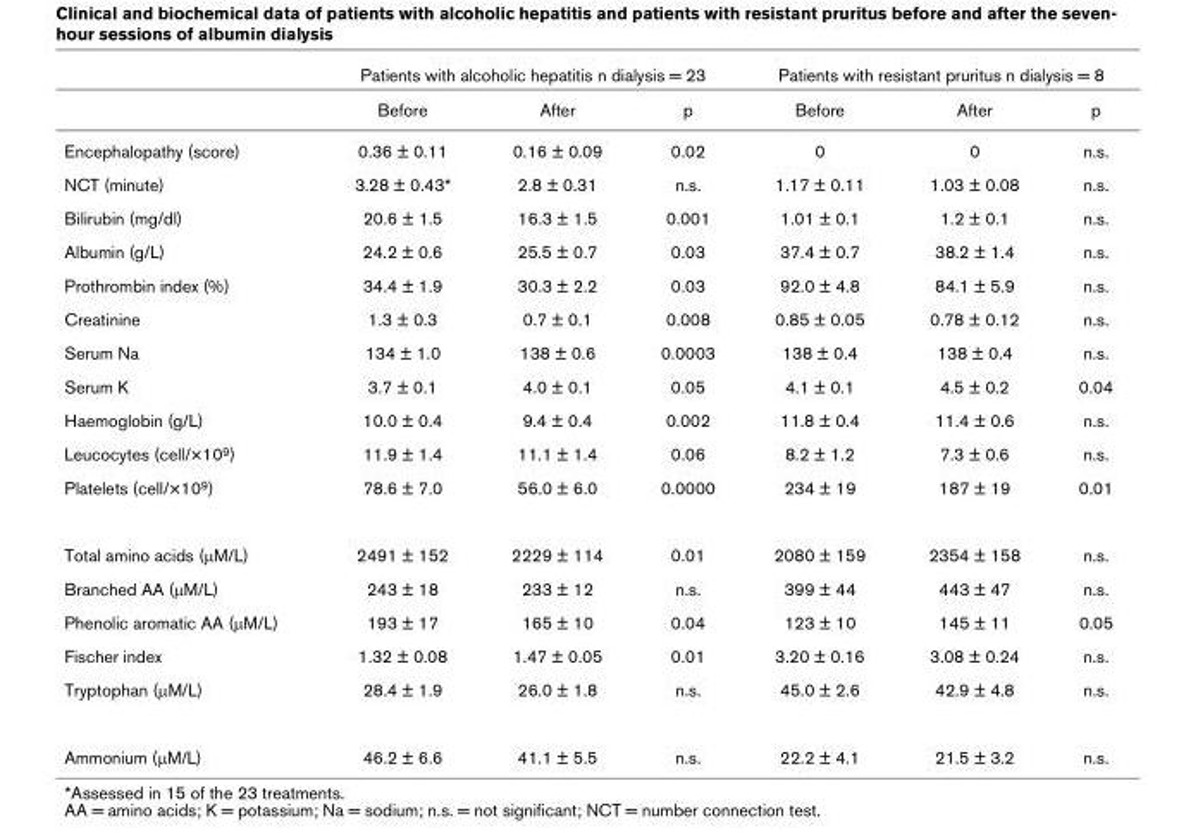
<table><thead><tr><td rowspan="2"></td><td colspan="3">Patients with alcoholic hepatitis n dialysis = 23</td><td colspan="3">Patients with resistant pruritus n dialysis = 8</td></tr><tr><td>Before</td><td>After</td><td>p</td><td>Before</td><td>After</td><td>p</td></tr></thead><tbody><tr><td>Encephalopathy (score)</td><td>0.36 ± 0.11</td><td>0.16 ± 0.09</td><td>0.02</td><td>0</td><td>0</td><td>n.s.</td></tr><tr><td>NCT (minute)</td><td>3.28 ± 0.43*</td><td>2.8 ± 0.31</td><td>n.s.</td><td>1.17 ± 0.11</td><td>1.03 ± 0.08</td><td>n.s.</td></tr><tr><td>Bilirubin (mg/dl)</td><td>20.6 ± 1.5</td><td>16.3 ± 1.5</td><td>0.001</td><td>1.01 ± 0.1</td><td>1.2 ± 0.1</td><td>n.s.</td></tr><tr><td>Albumin (g/L)</td><td>24.2 ± 0.6</td><td>25.5 ± 0.7</td><td>0.03</td><td>37.4 ± 0.7</td><td>38.2 ± 1.4</td><td>n.s.</td></tr><tr><td>Prothrombin index (%)</td><td>34.4 ± 1.9</td><td>30.3 ± 2.2</td><td>0.03</td><td>92.0 ± 4.8</td><td>84.1 ± 5.9</td><td>n.s.</td></tr><tr><td>Creatinine</td><td>1.3 ± 0.3</td><td>0.7 ± 0.1</td><td>0.008</td><td>0.85 ± 0.05</td><td>0.78 ± 0.12</td><td>n.s.</td></tr><tr><td>Serum Na</td><td>134 ± 1.0</td><td>138 ± 0.6</td><td>0.0003</td><td>138 ± 0.4</td><td>138 ± 0.4</td><td>n.s.</td></tr><tr><td>Serum K</td><td>3.7 ± 0.1</td><td>4.0 ± 0.1</td><td>0.05</td><td>4.1 ± 0.1</td><td>4.5 ± 0.2</td><td>0.04</td></tr><tr><td>Haemoglobin (g/L)</td><td>10.0 ± 0.4</td><td>9.4 ± 0.4</td><td>0.002</td><td>11.8 ± 0.4</td><td>11.4 ± 0.6</td><td>n.s.</td></tr><tr><td>Leucocytes (cell/×10<sup>9</sup>)</td><td>11.9 ± 1.4</td><td>11.1 ± 1.4</td><td>0.06</td><td>8.2 ± 1.2</td><td>7.3 ± 0.6</td><td>n.s.</td></tr><tr><td>Platelets (cell/×10<sup>9</sup>)</td><td>78.6 ± 7.0</td><td>56.0 ± 6.0</td><td>0.0000</td><td>234 ± 19</td><td>187 ± 19</td><td>0.01</td></tr><tr><td>Total amino acids (μM/L)</td><td>2491 ± 152</td><td>2229 ± 114</td><td>0.01</td><td>2080 ± 159</td><td>2354 ± 158</td><td>n.s.</td></tr><tr><td>Branched AA (μM/L)</td><td>243 ± 18</td><td>233 ± 12</td><td>n.s.</td><td>399 ± 44</td><td>443 ± 47</td><td>n.s.</td></tr><tr><td>Phenolic aromatic AA (μM/L)</td><td>193 ± 17</td><td>165 ± 10</td><td>0.04</td><td>123 ± 10</td><td>145 ± 11</td><td>0.05</td></tr><tr><td>Fischer index</td><td>1.32 ± 0.08</td><td>1.47 ± 0.05</td><td>0.01</td><td>3.20 ± 0.16</td><td>3.08 ± 0.24</td><td>n.s.</td></tr><tr><td>Tryptophan (μM/L)</td><td>28.4 ± 1.9</td><td>26.0 ± 1.8</td><td>n.s.</td><td>45.0 ± 2.6</td><td>42.9 ± 4.8</td><td>n.s.</td></tr><tr><td>Ammonium (μM/L)</td><td>46.2 ± 6.6</td><td>41.1 ± 5.5</td><td>n.s.</td><td>22.2 ± 4.1</td><td>21.5 ± 3.2</td><td>n.s.</td></tr></tbody></table>